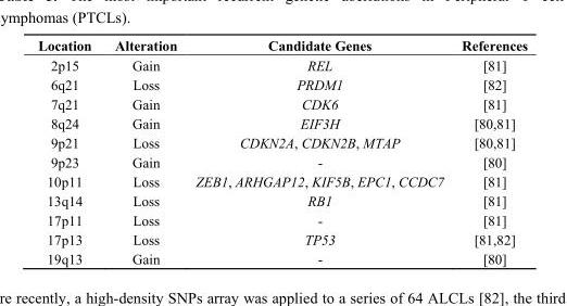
<table><thead><tr><td>Location</td><td>Alteration</td><td>Candidate Genes</td><td>References</td></tr></thead><tbody><tr><td>2p15</td><td>Gain</td><td>REL</td><td>[81]</td></tr><tr><td>6q21</td><td>Loss</td><td>PRDM1</td><td>[82]</td></tr><tr><td>7q21</td><td>Gain</td><td>CDK6</td><td>[81]</td></tr><tr><td>8q24</td><td>Gain</td><td>EIF3H</td><td>[80,81]</td></tr><tr><td>9p21</td><td>Loss</td><td>CDKN2A, CDKN2B, MTAP</td><td>[80,81]</td></tr><tr><td>9p23</td><td>Gain</td><td>-</td><td>[80]</td></tr><tr><td>10p11</td><td>Loss</td><td>ZEB1, ARHGAP12, KIF5B, EPC1, CCDC7</td><td>[81]</td></tr><tr><td>13q14</td><td>Loss</td><td>RB1</td><td>[81]</td></tr><tr><td>17p11</td><td>Loss</td><td>-</td><td>[81]</td></tr><tr><td>17p13</td><td>Loss</td><td>TP53</td><td>[81,82]</td></tr><tr><td>19q13</td><td>Gain</td><td>-</td><td>[80]</td></tr></tbody></table>